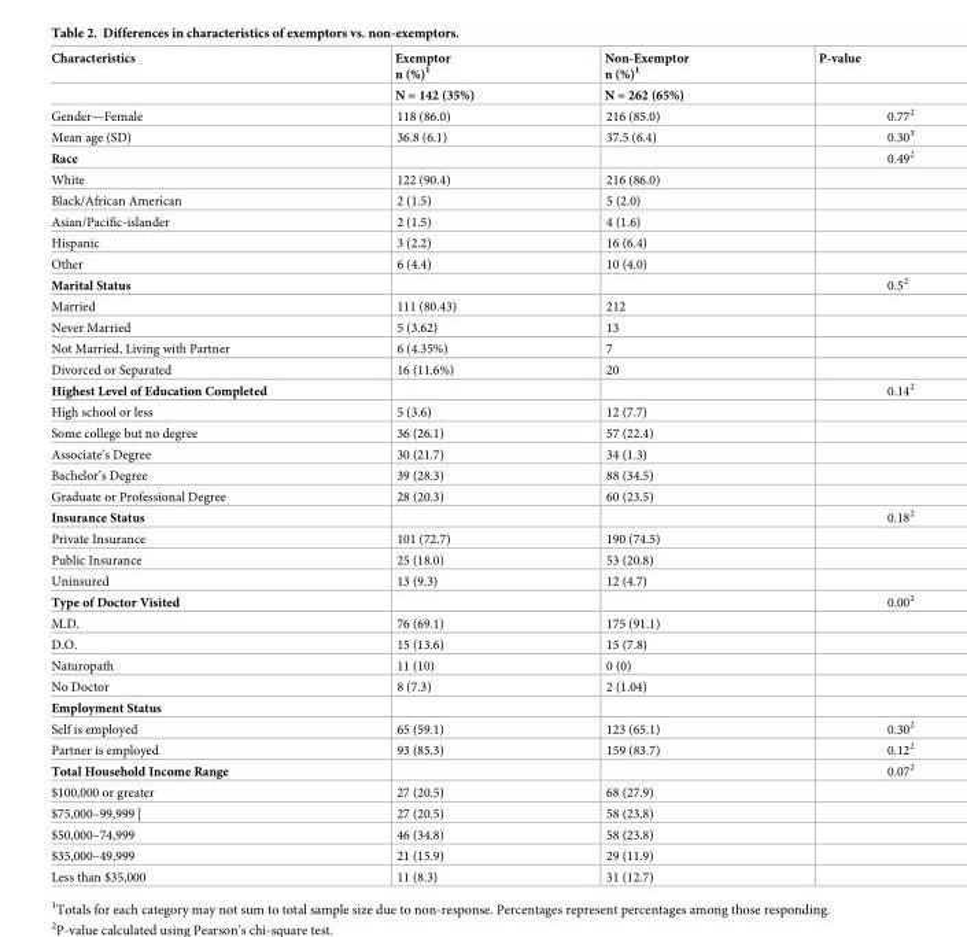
<table><thead><tr><td rowspan="2">Characteristics</td><td rowspan="2">Exemptor n (%)<sup>1</sup> N = 142 (35%)</td><td rowspan="2">Non-Exemptor n (%)<sup>1</sup> N = 262 (65%)</td><td rowspan="2">P-value</td></tr><tr></tr></thead><tbody><tr><td>Gender—Female</td><td>118 (86.0)</td><td>216 (85.0)</td><td>0.77<sup>2</sup></td></tr><tr><td>Mean age (SD)</td><td>36.8 (6.1)</td><td>37.5 (6.4)</td><td>0.30<sup>3</sup></td></tr><tr><td>Race</td><td></td><td></td><td>0.49<sup>2</sup></td></tr><tr><td>White</td><td>122 (90.4)</td><td>216 (86.0)</td><td></td></tr><tr><td>Black/African American</td><td>2 (1.5)</td><td>5 (2.0)</td><td></td></tr><tr><td>Asian/Pacific-islander</td><td>2 (1.5)</td><td>4 (1.6)</td><td></td></tr><tr><td>Hispanic</td><td>3 (2.2)</td><td>16 (6.4)</td><td></td></tr><tr><td>Other</td><td>6 (4.4)</td><td>10 (4.0)</td><td></td></tr><tr><td>Marital Status</td><td></td><td></td><td>0.5<sup>2</sup></td></tr><tr><td>Married</td><td>111 (80.43)</td><td>212</td><td></td></tr><tr><td>Never Married</td><td>5 (3.62)</td><td>13</td><td></td></tr><tr><td>Not Married, Living with Partner</td><td>6 (4.35%)</td><td>7</td><td></td></tr><tr><td>Divorced or Separated</td><td>16 (11.6%)</td><td>20</td><td></td></tr><tr><td>Highest Level of Education Completed</td><td></td><td></td><td>0.14<sup>2</sup></td></tr><tr><td>High school or less</td><td>5 (3.6)</td><td>12 (7.7)</td><td></td></tr><tr><td>Some college but no degree</td><td>36 (26.1)</td><td>57 (22.4)</td><td></td></tr><tr><td>Associate’s Degree</td><td>30 (21.7)</td><td>34 (1.3)</td><td></td></tr><tr><td>Bachelor’s Degree</td><td>39 (28.3)</td><td>88 (34.5)</td><td></td></tr><tr><td>Graduate or Professional Degree</td><td>28 (20.3)</td><td>60 (23.5)</td><td></td></tr><tr><td>Insurance Status</td><td></td><td></td><td>0.18<sup>2</sup></td></tr><tr><td>Private Insurance</td><td>101 (72.7)</td><td>190 (74.5)</td><td></td></tr><tr><td>Public Insurance</td><td>25 (18.0)</td><td>53 (20.8)</td><td></td></tr><tr><td>Uninsured</td><td>13 (9.3)</td><td>12 (4.7)</td><td></td></tr><tr><td>Type of Doctor Visited</td><td></td><td></td><td>0.00<sup>2</sup></td></tr><tr><td>M.D.</td><td>76 (69.1)</td><td>175 (91.1)</td><td></td></tr><tr><td>D.O.</td><td>15 (13.6)</td><td>15 (7.8)</td><td></td></tr><tr><td>Naturopath</td><td>11 (10)</td><td>0 (0)</td><td></td></tr><tr><td>No Doctor</td><td>8 (7.3)</td><td>2 (1.04)</td><td></td></tr><tr><td colspan="4">Employment Status</td></tr><tr><td>Self is employed</td><td>65 (59.1)</td><td>123 (65.1)</td><td>0.30<sup>2</sup></td></tr><tr><td>Partner is employed</td><td>93 (85.3)</td><td>159 (83.7)</td><td>0.12<sup>2</sup></td></tr><tr><td>Total Household Income Range</td><td></td><td></td><td>0.07<sup>2</sup></td></tr><tr><td>$100,000 or greater</td><td>27 (20.5)</td><td>68 (27.9)</td><td></td></tr><tr><td>$75,000–99,999 |</td><td>27 (20.5)</td><td>58 (23.8)</td><td></td></tr><tr><td>$50,000–74,999</td><td>46 (34.8)</td><td>58 (23.8)</td><td></td></tr><tr><td>$35,000–49,999</td><td>21 (15.9)</td><td>29 (11.9)</td><td></td></tr><tr><td>Less than $35,000</td><td>11 (8.3)</td><td>31 (12.7)</td><td></td></tr></tbody></table>